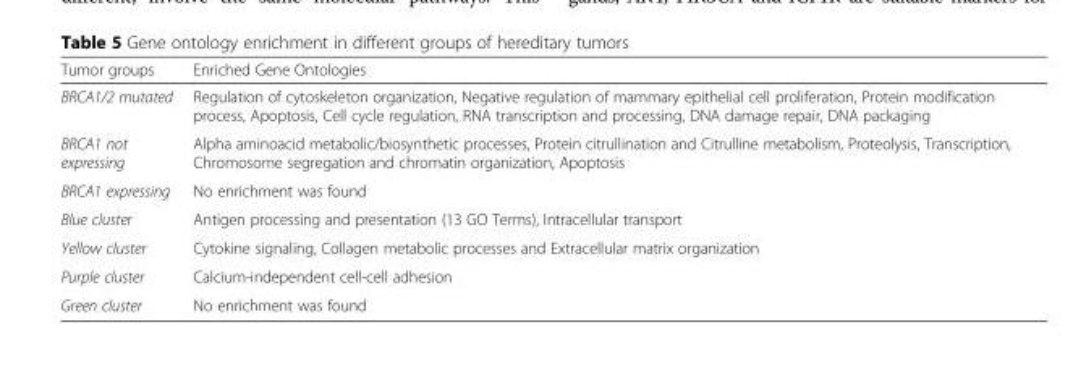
<table><thead><tr><td>Tumor groups</td><td>Enriched Gene Ontologies</td></tr></thead><tbody><tr><td>BRCA1/2 mutated</td><td>Regulation of cytoskeleton organization, Negative regulation of mammary epithelial cell proliferation, Protein modification process, Apoptosis, Cell cycle regulation, RNA transcription and processing, DNA damage repair, DNA packaging</td></tr><tr><td>BRCA1 not expressing</td><td>Alpha aminoacid metabolic/biosynthetic processes, Protein citrullination and Citrulline metabolism, Proteolysis, Transcription, Chromosome segregation and chromatin organization, Apoptosis</td></tr><tr><td>BRCA1 expressing</td><td>No enrichment was found</td></tr><tr><td>Blue cluster</td><td>Antigen processing and presentation (13 GO Terms), Intracellular transport</td></tr><tr><td>Yellow cluster</td><td>Cytokine signaling, Collagen metabolic processes and Extracellular matrix organization</td></tr><tr><td>Purple cluster</td><td>Calcium-independent cell-cell adhesion</td></tr><tr><td>Green cluster</td><td>No enrichment was found</td></tr></tbody></table>